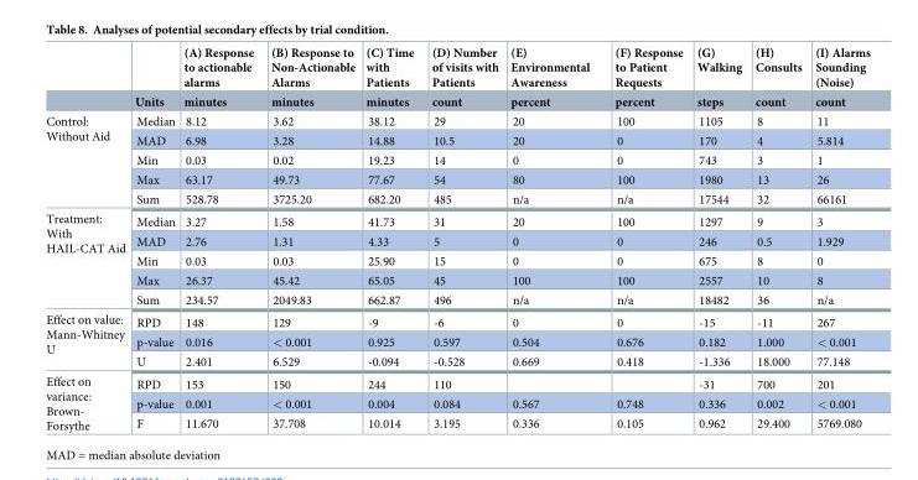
<table><thead><tr><td rowspan="2"></td><td rowspan="2">Units</td><td rowspan="2">(A) Response to actionable alarms minutes</td><td rowspan="2">(B) Response to Non-Actionable Alarms minutes</td><td rowspan="2">(C) Time with Patients minutes</td><td rowspan="2">(D) Number of visits with Patients count</td><td rowspan="2">(E) Environmental Awareness percent</td><td rowspan="2">(F) Response to Patient Requests percent</td><td rowspan="2">(G) Walking steps</td><td rowspan="2">(H) Consults count</td><td rowspan="2">(I) Alarms Sounding (Noise) count</td></tr><tr></tr></thead><tbody><tr><td rowspan="5">Control: Without Aid</td><td>Median</td><td>8.12</td><td>3.62</td><td>38.12</td><td>29</td><td>20</td><td>100</td><td>1105</td><td>8</td><td>11</td></tr><tr><td>MAD</td><td>6.98</td><td>3.28</td><td>14.88</td><td>10.5</td><td>20</td><td>0</td><td>170</td><td>4</td><td>5.814</td></tr><tr><td>Min</td><td>0.03</td><td>0.02</td><td>19.23</td><td>14</td><td>0</td><td>0</td><td>743</td><td>3</td><td>1</td></tr><tr><td>Max</td><td>63.17</td><td>49.73</td><td>77.67</td><td>54</td><td>80</td><td>100</td><td>1980</td><td>13</td><td>26</td></tr><tr><td>Sum</td><td>528.78</td><td>3725.20</td><td>682.20</td><td>485</td><td>n/a</td><td>n/a</td><td>17544</td><td>32</td><td>66161</td></tr><tr><td rowspan="5">Treatment: With HAIL-CAT Aid</td><td>Median</td><td>3.27</td><td>1.58</td><td>41.73</td><td>31</td><td>20</td><td>100</td><td>1297</td><td>9</td><td>3</td></tr><tr><td>MAD</td><td>2.76</td><td>1.31</td><td>4.33</td><td>5</td><td>0</td><td>0</td><td>246</td><td>0.5</td><td>1.929</td></tr><tr><td>Min</td><td>0.03</td><td>0.03</td><td>25.90</td><td>15</td><td>0</td><td>0</td><td>675</td><td>8</td><td>0</td></tr><tr><td>Max</td><td>26.37</td><td>45.42</td><td>65.05</td><td>45</td><td>100</td><td>100</td><td>2557</td><td>10</td><td>8</td></tr><tr><td>Sum</td><td>234.57</td><td>2049.83</td><td>662.87</td><td>496</td><td>n/a</td><td>n/a</td><td>18482</td><td>36</td><td>n/a</td></tr><tr><td rowspan="3">Effect on value: Mann-Whitney U</td><td>RPD</td><td>148</td><td>129</td><td>-9</td><td>-6</td><td>0</td><td>0</td><td>-15</td><td>-11</td><td>267</td></tr><tr><td>p-value</td><td>0.016</td><td>&lt; 0.001</td><td>0.925</td><td>0.597</td><td>0.504</td><td>0.676</td><td>0.182</td><td>1.000</td><td>&lt; 0.001</td></tr><tr><td>U</td><td>2.401</td><td>6.529</td><td>-0.094</td><td>-0.528</td><td>0.669</td><td>0.418</td><td>-1.336</td><td>18.000</td><td>77.148</td></tr><tr><td rowspan="3">Effect on variance: Brown- Forsythe</td><td>RPD</td><td>153</td><td>150</td><td>244</td><td>110</td><td></td><td></td><td>-31</td><td>700</td><td>201</td></tr><tr><td>p-value</td><td>0.001</td><td>&lt; 0.001</td><td>0.004</td><td>0.084</td><td>0.567</td><td>0.748</td><td>0.336</td><td>0.002</td><td>&lt; 0.001</td></tr><tr><td>F</td><td>11.670</td><td>37.708</td><td>10.014</td><td>3.195</td><td>0.336</td><td>0.105</td><td>0.962</td><td>29.400</td><td>5769.080</td></tr></tbody></table>